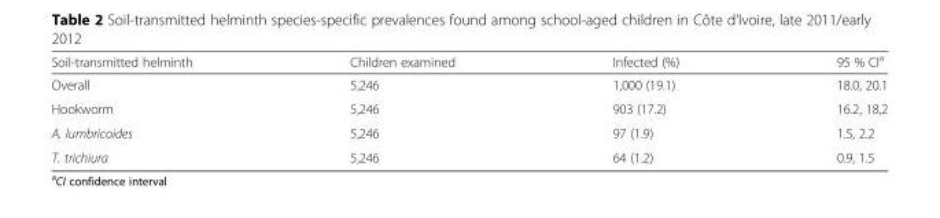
<table><thead><tr><td>Soil-transmitted helminth</td><td>Children examined</td><td>Infected (%)</td><td>95 % CI<sup>a</sup></td></tr></thead><tbody><tr><td>Overall</td><td>5,246</td><td>1,000 (19.1)</td><td>18.0, 20.1</td></tr><tr><td>Hookworm</td><td>5,246</td><td>903 (17.2)</td><td>16.2, 18,2</td></tr><tr><td>A. lumbricoides</td><td>5,246</td><td>97 (1.9)</td><td>1.5, 2.2</td></tr><tr><td>T. trichiura</td><td>5,246</td><td>64 (1.2)</td><td>0.9, 1.5</td></tr></tbody></table>